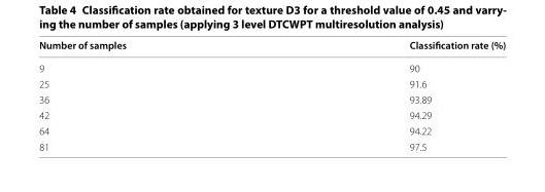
<table><thead><tr><td>Number of samples</td><td>Classification rate (%)</td></tr></thead><tbody><tr><td>9</td><td>90</td></tr><tr><td>25</td><td>91.6</td></tr><tr><td>36</td><td>93.89</td></tr><tr><td>42</td><td>94.29</td></tr><tr><td>64</td><td>94.22</td></tr><tr><td>81</td><td>97.5</td></tr></tbody></table>